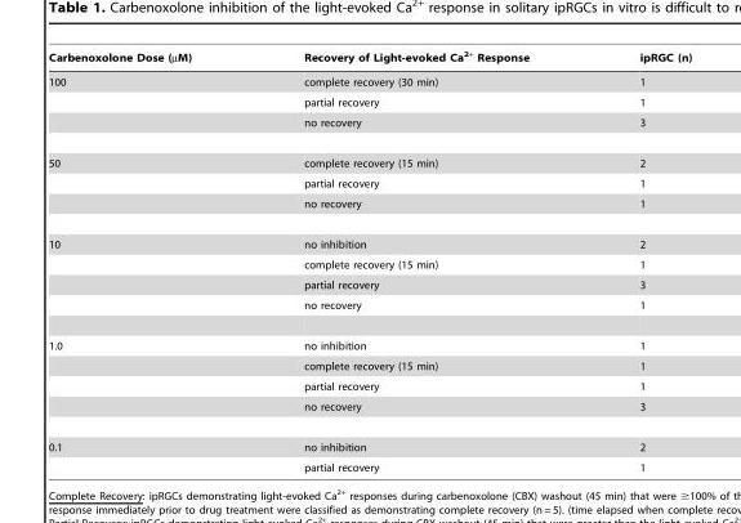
<table><thead><tr><td>Carbenoxolone Dose (µM)</td><td>Recovery of Light-evoked Ca<sup>2+</sup> Response</td><td>ipRGC (n)</td></tr></thead><tbody><tr><td rowspan="3">100</td><td>complete recovery (30 min)</td><td>1</td></tr><tr><td>partial recovery</td><td>1</td></tr><tr><td>no recovery</td><td>3</td></tr><tr><td rowspan="3">50</td><td>complete recovery (15 min)</td><td>2</td></tr><tr><td>partial recovery</td><td>1</td></tr><tr><td>no recovery</td><td>1</td></tr><tr><td rowspan="4">10</td><td>no inhibition</td><td>2</td></tr><tr><td>complete recovery (15 min)</td><td>1</td></tr><tr><td>partial recovery</td><td>3</td></tr><tr><td>no recovery</td><td>1</td></tr><tr><td rowspan="4">1.0</td><td>no inhibition</td><td>1</td></tr><tr><td>complete recovery (15 min)</td><td>1</td></tr><tr><td>partial recovery</td><td>1</td></tr><tr><td>no recovery</td><td>3</td></tr><tr><td rowspan="2">0.1</td><td>no inhibition</td><td>2</td></tr><tr><td>partial recovery</td><td>1</td></tr></tbody></table>